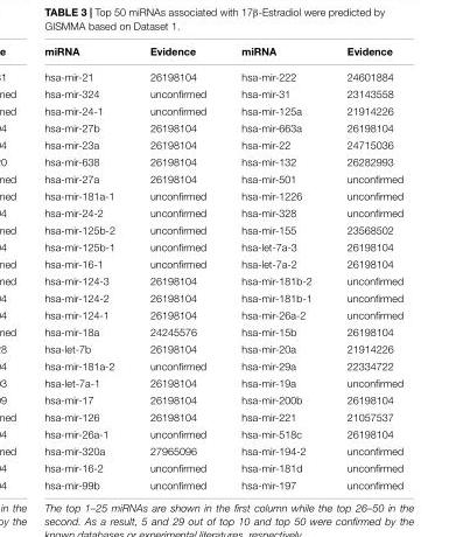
<table><thead><tr><td>miRNA</td><td>Evidence</td><td>miRNA</td><td>Evidence</td></tr></thead><tbody><tr><td>hsa-mir-21</td><td>26198104</td><td>hsa-mir-222</td><td>24601884</td></tr><tr><td>hsa-mir-324</td><td>unconfirmed</td><td>hsa-mir-31</td><td>23143558</td></tr><tr><td>hsa-mir-24-1</td><td>unconfirmed</td><td>hsa-mir-125a</td><td>21914226</td></tr><tr><td>hsa-mir-27b</td><td>26198104</td><td>hsa-mir-663a</td><td>26198104</td></tr><tr><td>hsa-mir-23a</td><td>26198104</td><td>hsa-mir-22</td><td>24715036</td></tr><tr><td>hsa-mir-638</td><td>26198104</td><td>hsa-mir-132</td><td>26282993</td></tr><tr><td>hsa-mir-27a</td><td>26198104</td><td>hsa-mir-501</td><td>unconfirmed</td></tr><tr><td>hsa-mir-181a-1</td><td>unconfirmed</td><td>hsa-mir-1226</td><td>unconfirmed</td></tr><tr><td>hsa-mir-24-2</td><td>unconfirmed</td><td>hsa-mir-328</td><td>unconfirmed</td></tr><tr><td>hsa-mir-125b-2</td><td>unconfirmed</td><td>hsa-mir-155</td><td>23568502</td></tr><tr><td>hsa-mir-125b-1</td><td>unconfirmed</td><td>hsa-let-7a-3</td><td>26198104</td></tr><tr><td>hsa-mir-16-1</td><td>unconfirmed</td><td>hsa-let-7a-2</td><td>26198104</td></tr><tr><td>hsa-mir-124-3</td><td>26198104</td><td>hsa-mir-181b-2</td><td>unconfirmed</td></tr><tr><td>hsa-mir-124-2</td><td>26198104</td><td>hsa-mir-181b-1</td><td>unconfirmed</td></tr><tr><td>hsa-mir-124-1</td><td>26198104</td><td>hsa-mir-26a-2</td><td>unconfirmed</td></tr><tr><td>hsa-mir-18a</td><td>24245576</td><td>hsa-mir-15b</td><td>26198104</td></tr><tr><td>hsa-let-7b</td><td>26198104</td><td>hsa-mir-20a</td><td>21914226</td></tr><tr><td>hsa-mir-181a-2</td><td>unconfirmed</td><td>hsa-mir-29a</td><td>22334722</td></tr><tr><td>hsa-let-7a-1</td><td>26198104</td><td>hsa-mir-19a</td><td>unconfirmed</td></tr><tr><td>hsa-mir-17</td><td>26198104</td><td>hsa-mir-200b</td><td>26198104</td></tr><tr><td>hsa-mir-126</td><td>26198104</td><td>hsa-mir-221</td><td>21057537</td></tr><tr><td>hsa-mir-26a-1</td><td>unconfirmed</td><td>hsa-mir-518c</td><td>26198104</td></tr><tr><td>hsa-mir-320a</td><td>27965096</td><td>hsa-mir-194-2</td><td>unconfirmed</td></tr><tr><td>hsa-mir-16-2</td><td>unconfirmed</td><td>hsa-mir-181d</td><td>unconfirmed</td></tr><tr><td>hsa-mir-99b</td><td>unconfirmed</td><td>hsa-mir-197</td><td>unconfirmed</td></tr></tbody></table>